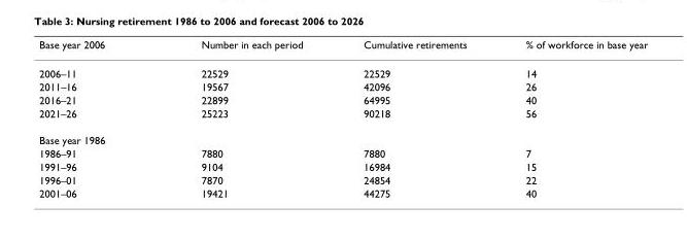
<table><thead><tr><td>Base year 2006</td><td>Number in each period</td><td>Cumulative retirements</td><td>% of workforce in base year</td></tr></thead><tbody><tr><td>2006–11</td><td>22529</td><td>22529</td><td>14</td></tr><tr><td>2011–16</td><td>19567</td><td>42096</td><td>26</td></tr><tr><td>2016–21</td><td>22899</td><td>64995</td><td>40</td></tr><tr><td>2021–26</td><td>25223</td><td>90218</td><td>56</td></tr><tr><td colspan="4">Base year 1986</td></tr><tr><td>1986–91</td><td>7880</td><td>7880</td><td>7</td></tr><tr><td>1991–96</td><td>9104</td><td>16984</td><td>15</td></tr><tr><td>1996–01</td><td>7870</td><td>24854</td><td>22</td></tr><tr><td>2001–06</td><td>19421</td><td>44275</td><td>40</td></tr></tbody></table>